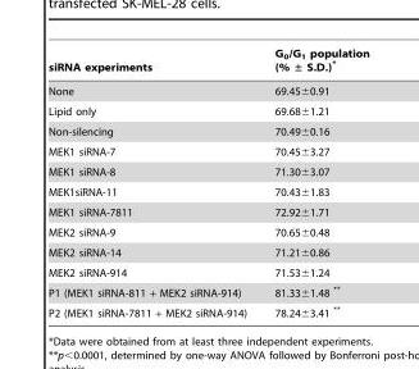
<table><thead><tr><td>siRNA experiments</td><td>G<sub>0</sub>/G<sub>1</sub> population (% ± S.D.)*</td></tr></thead><tbody><tr><td>None</td><td>69.45±0.91</td></tr><tr><td>Lipid only</td><td>69.68±1.21</td></tr><tr><td>Non-silencing</td><td>70.49±0.16</td></tr><tr><td>MEK1 siRNA-7</td><td>70.45±3.27</td></tr><tr><td>MEK1 siRNA-8</td><td>71.30±3.07</td></tr><tr><td>MEK1siRNA-11</td><td>70.43±1.83</td></tr><tr><td>MEK1 siRNA-7811</td><td>72.92±1.71</td></tr><tr><td>MEK2 siRNA-9</td><td>70.65±0.48</td></tr><tr><td>MEK2 siRNA-14</td><td>71.21±0.86</td></tr><tr><td>MEK2 siRNA-914</td><td>71.53±1.24</td></tr><tr><td>P1 (MEK1 siRNA-811 + MEK2 siRNA-914)</td><td>81.33±1.48 **</td></tr><tr><td>P2 (MEK1 siRNA-7811 + MEK2 siRNA-914)</td><td>78.24±3.41 **</td></tr></tbody></table>